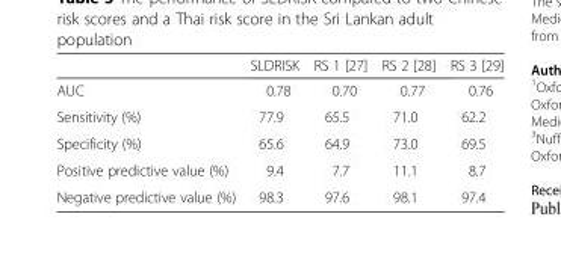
<table><thead><tr><td></td><td>SLDRISK</td><td>RS 1 [27]</td><td>RS 2 [28]</td><td>RS 3 [29]</td></tr></thead><tbody><tr><td>AUC</td><td>0.78</td><td>0.70</td><td>0.77</td><td>0.76</td></tr><tr><td>Sensitivity (%)</td><td>77.9</td><td>65.5</td><td>71.0</td><td>62.2</td></tr><tr><td>Specificity (%)</td><td>65.6</td><td>64.9</td><td>73.0</td><td>69.5</td></tr><tr><td>Positive predictive value (%)</td><td>9.4</td><td>7.7</td><td>11.1</td><td>8.7</td></tr><tr><td>Negative predictive value (%)</td><td>98.3</td><td>97.6</td><td>98.1</td><td>97.4</td></tr></tbody></table>